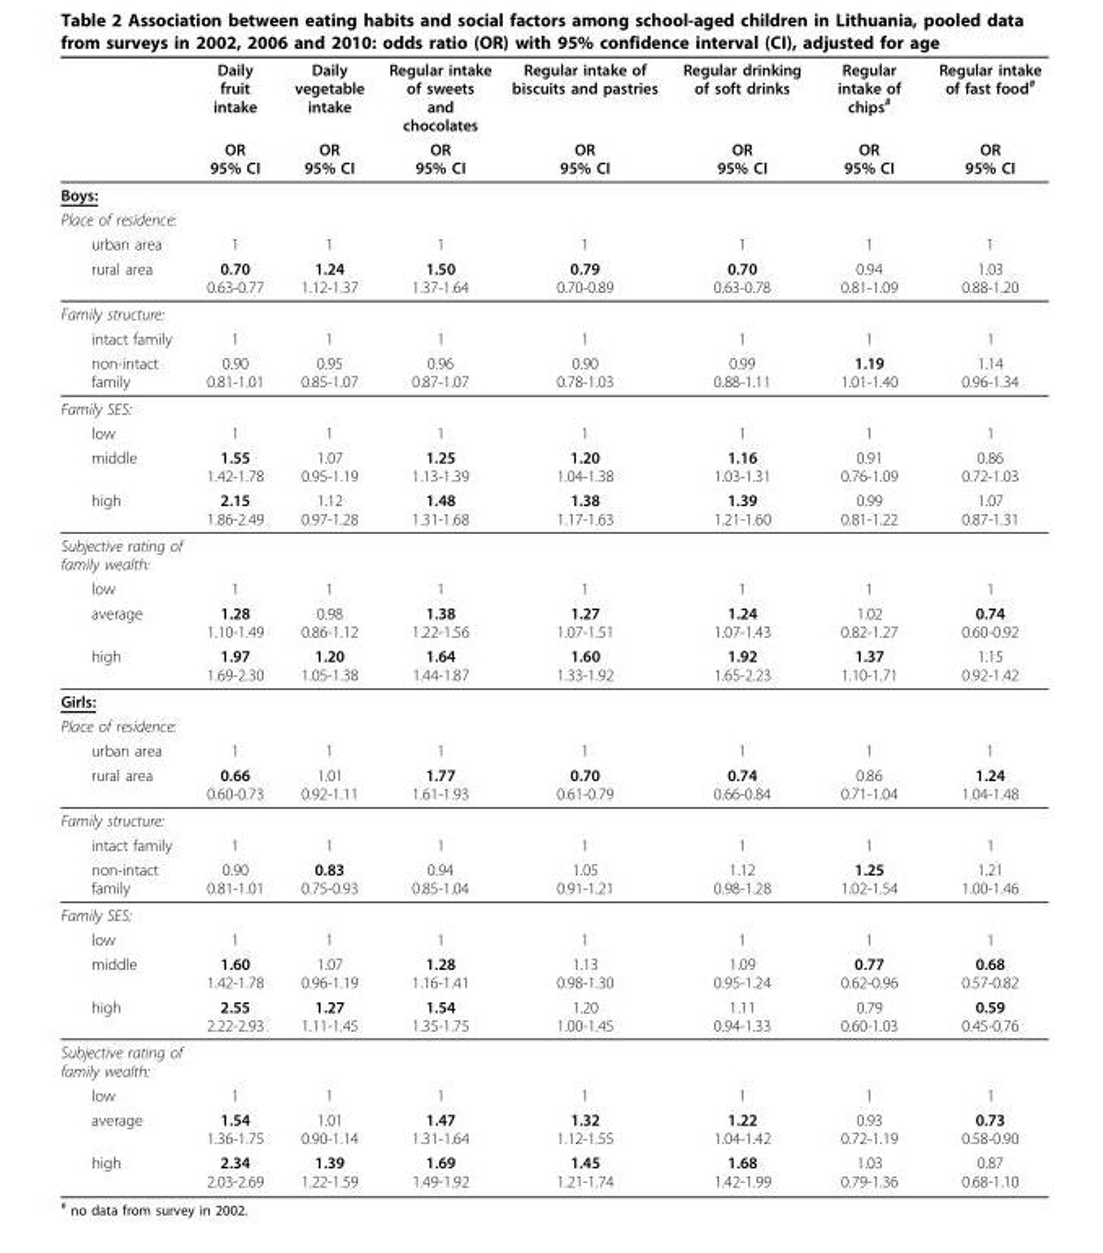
<table><thead><tr><td rowspan="2"></td><td rowspan="2">Daily fruit intake OR 95% CI</td><td rowspan="2">Daily vegetable intake OR 95% CI</td><td rowspan="2">Regular intake of sweets and chocolates OR 95% CI</td><td rowspan="2">Regular intake of biscuits and pastries OR 95% CI</td><td rowspan="2">Regular drinking of soft drinks OR 95% CI</td><td rowspan="2">Regular intake of chips# OR 95% CI</td><td rowspan="2">Regular intake of fast food# OR 95% CI</td></tr><tr></tr></thead><tbody><tr><td colspan="8">Boys:</td></tr><tr><td colspan="8">Place of residence:</td></tr><tr><td>urban area</td><td>1</td><td>1</td><td>1</td><td>1</td><td>1</td><td>1</td><td>1</td></tr><tr><td>rural area</td><td>0.70 0.63-0.77</td><td>1.24 1.12-1.37</td><td>1.50 1.37-1.64</td><td>0.79 0.70-0.89</td><td>0.70 0.63-0.78</td><td>0.94 0.81-1.09</td><td>1.03 0.88-1.20</td></tr><tr><td colspan="8">Family structure:</td></tr><tr><td>intact family</td><td>1</td><td>1</td><td>1</td><td>1</td><td>1</td><td>1</td><td>1</td></tr><tr><td>non-intact family</td><td>0.90 0.81-1.01</td><td>0.95 0.85-1.07</td><td>0.96 0.87-1.07</td><td>0.90 0.78-1.03</td><td>0.99 0.88-1.11</td><td>1.19 1.01-1.40</td><td>1.14 0.96-1.34</td></tr><tr><td colspan="8">Family SES:</td></tr><tr><td>low</td><td>1</td><td>1</td><td>1</td><td>1</td><td>1</td><td>1</td><td>1</td></tr><tr><td>middle</td><td>1.55 1.42-1.78</td><td>1.07 0.95-1.19</td><td>1.25 1.13-1.39</td><td>1.20 1.04-1.38</td><td>1.16 1.03-1.31</td><td>0.91 0.76-1.09</td><td>0.86 0.72-1.03</td></tr><tr><td>high</td><td>2.15 1.86-2.49</td><td>1.12 0.97-1.28</td><td>1.48 1.31-1.68</td><td>1.38 1.17-1.63</td><td>1.39 1.21-1.60</td><td>0.99 0.81-1.22</td><td>1.07 0.87-1.31</td></tr><tr><td colspan="8">Subjective rating of family wealth:</td></tr><tr><td>low</td><td>1</td><td>1</td><td>1</td><td>1</td><td>1</td><td>1</td><td>1</td></tr><tr><td>average</td><td>1.28 1.10-1.49</td><td>0.98 0.86-1.12</td><td>1.38 1.22-1.56</td><td>1.27 1.07-1.51</td><td>1.24 1.07-1.43</td><td>1.02 0.82-1.27</td><td>0.74 0.60-0.92</td></tr><tr><td>high</td><td>1.97 1.69-2.30</td><td>1.20 1.05-1.38</td><td>1.64 1.44-1.87</td><td>1.60 1.33-1.92</td><td>1.92 1.65-2.23</td><td>1.37 1.10-1.71</td><td>1.15 0.92-1.42</td></tr><tr><td colspan="8">Girls:</td></tr><tr><td colspan="8">Place of residence:</td></tr><tr><td>urban area</td><td>1</td><td>1</td><td>1</td><td>1</td><td>1</td><td>1</td><td>1</td></tr><tr><td>rural area</td><td>0.66 0.60-0.73</td><td>1.01 0.92-1.11</td><td>1.77 1.61-1.93</td><td>0.70 0.61-0.79</td><td>0.74 0.66-0.84</td><td>0.86 0.71-1.04</td><td>1.24 1.04-1.48</td></tr><tr><td colspan="8">Family structure:</td></tr><tr><td>intact family</td><td>1</td><td>1</td><td>1</td><td>1</td><td>1</td><td>1</td><td>1</td></tr><tr><td>non-intact family</td><td>0.90 0.81-1.01</td><td>0.83 0.75-0.93</td><td>0.94 0.85-1.04</td><td>1.05 0.91-1.21</td><td>1.12 0.98-1.28</td><td>1.25 1.02-1.54</td><td>1.21 1.00-1.46</td></tr><tr><td colspan="8">Family SES:</td></tr><tr><td>low</td><td>1</td><td>1</td><td>1</td><td>1</td><td>1</td><td>1</td><td>1</td></tr><tr><td>middle</td><td>1.60 1.42-1.78</td><td>1.07 0.96-1.19</td><td>1.28 1.16-1.41</td><td>1.13 0.98-1.30</td><td>1.09 0.95-1.24</td><td>0.77 0.62-0.96</td><td>0.68 0.57-0.82</td></tr><tr><td>high</td><td>2.55 2.22-2.93</td><td>1.27 1.11-1.45</td><td>1.54 1.35-1.75</td><td>1.20 1.00-1.45</td><td>1.11 0.94-1.33</td><td>0.79 0.60-1.03</td><td>0.59 0.45-0.76</td></tr><tr><td colspan="8">Subjective rating of family wealth:</td></tr><tr><td>low</td><td>1</td><td>1</td><td>1</td><td>1</td><td>1</td><td>1</td><td>1</td></tr><tr><td>average</td><td>1.54 1.36-1.75</td><td>1.01 0.90-1.14</td><td>1.47 1.31-1.64</td><td>1.32 1.12-1.55</td><td>1.22 1.04-1.42</td><td>0.93 0.72-1.19</td><td>0.73 0.58-0.90</td></tr><tr><td>high</td><td>2.34 2.03-2.69</td><td>1.39 1.22-1.59</td><td>1.69 1.49-1.92</td><td>1.45 1.21-1.74</td><td>1.68 1.42-1.99</td><td>1.03 0.79-1.36</td><td>0.87 0.68-1.10</td></tr></tbody></table>